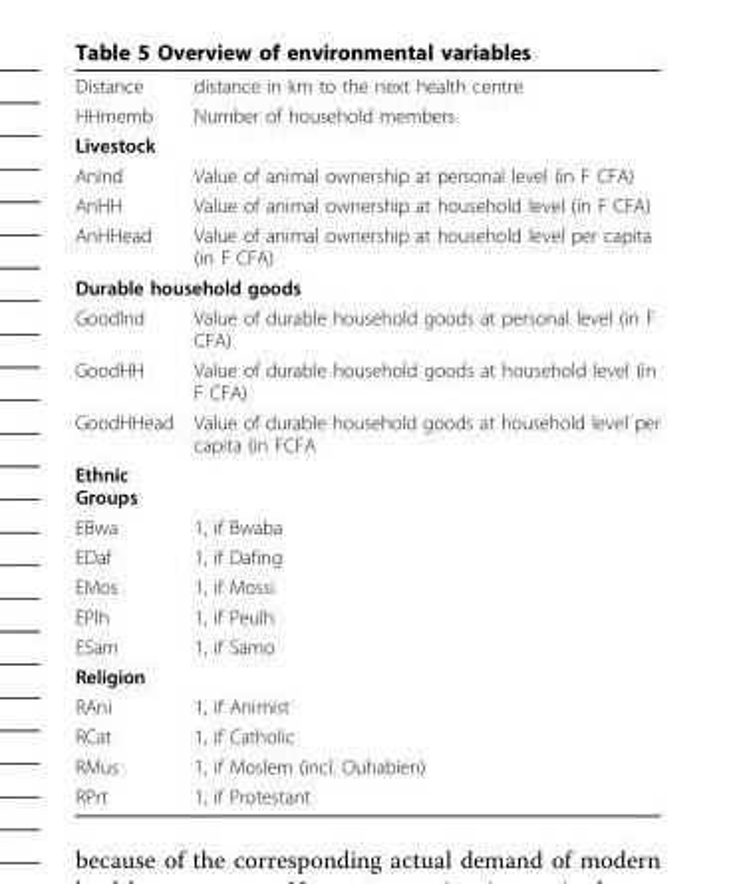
<table><tbody><tr><td>Distance</td><td>distance in km to the next health centre</td></tr><tr><td>HHmemb</td><td>Number of household members</td></tr><tr><td colspan="2">Livestock</td></tr><tr><td>AnInd</td><td>Value of animal ownership at personal level (in F CFA)</td></tr><tr><td>AnHH</td><td>Value of animal ownership at household level (in F CFA)</td></tr><tr><td>AnHHead</td><td>Value of animal ownership at household level per capita (in F CFA)</td></tr><tr><td colspan="2">Durable household goods</td></tr><tr><td>GoodInd</td><td>Value of durable household goods at personal level (in F CFA)</td></tr><tr><td>GoodHH</td><td>Value of durable household goods at household level (in F CFA)</td></tr><tr><td>GoodHHead</td><td>Value of durable household goods at household level per capita (in FCFA</td></tr><tr><td colspan="2">Ethnic Groups</td></tr><tr><td>EBwa</td><td>1, if Bwaba</td></tr><tr><td>EDaf</td><td>1, if Dafing</td></tr><tr><td>EMos</td><td>1, if Mossi</td></tr><tr><td>EPlh</td><td>1, if Peulh</td></tr><tr><td>ESam</td><td>1, if Samo</td></tr><tr><td colspan="2">Religion</td></tr><tr><td>RAni</td><td>1, if Animist</td></tr><tr><td>RCat</td><td>1, if Catholic</td></tr><tr><td>RMus</td><td>1, if Moslem (incl. Ouhabien)</td></tr><tr><td>RPrt</td><td>1, if Protestant</td></tr></tbody></table>